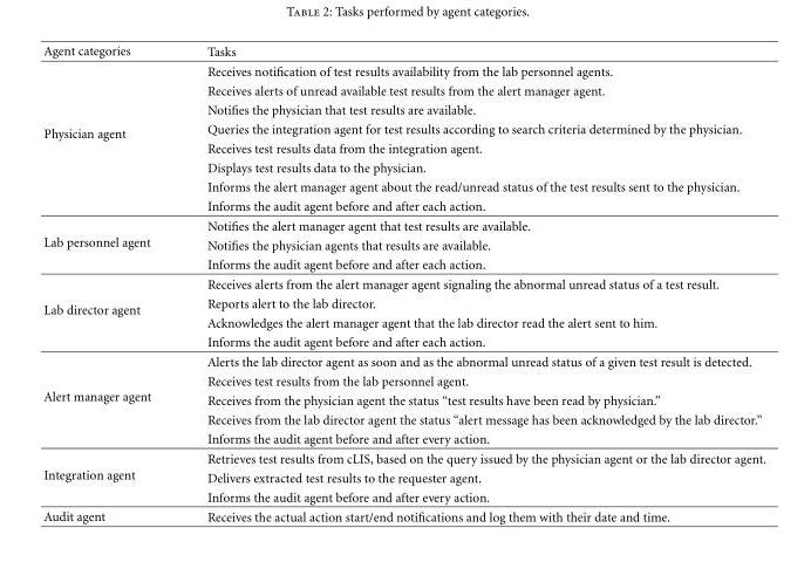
<table><thead><tr><td>Agent categories</td><td>Tasks</td></tr></thead><tbody><tr><td rowspan="8">Physician agent</td><td>Receives notification of test results availability from the lab personnel agents.</td></tr><tr><td>Receives alerts of unread available test results from the alert manager agent.</td></tr><tr><td>Notifies the physician that test results are available.</td></tr><tr><td>Queries the integration agent for test results according to search criteria determined by the physician.</td></tr><tr><td>Receives test results data from the integration agent.</td></tr><tr><td>Displays test results data to the physician.</td></tr><tr><td>Informs the alert manager agent about the read/unread status of the test results sent to the physician.</td></tr><tr><td>Informs the audit agent before and after each action.</td></tr><tr><td rowspan="3">Lab personnel agent</td><td>Notifies the alert manager agent that test results are available.</td></tr><tr><td>Notifies the physician agents that results are available.</td></tr><tr><td>Informs the audit agent before and after each action.</td></tr><tr><td rowspan="4">Lab director agent</td><td>Receives alerts from the alert manager agent signaling the abnormal unread status of a test result.</td></tr><tr><td>Reports alert to the lab director.</td></tr><tr><td>Acknowledges the alert manager agent that the lab director read the alert sent to him.</td></tr><tr><td>Informs the audit agent before and after each action.</td></tr><tr><td rowspan="5">Alert manager agent</td><td>Alerts the lab director agent as soon and as the abnormal unread status of a given test result is detected.</td></tr><tr><td>Receives test results from the lab personnel agent.</td></tr><tr><td>Receives from the physician agent the status “test results have been read by physician.”</td></tr><tr><td>Receives from the lab director agent the status “alert message has been acknowledged by the lab director.”</td></tr><tr><td>Informs the audit agent before and after every action.</td></tr><tr><td rowspan="3">Integration agent</td><td>Retrieves test results from cLIS, based on the query issued by the physician agent or the lab director agent.</td></tr><tr><td>Delivers extracted test results to the requester agent.</td></tr><tr><td>Informs the audit agent before and after every action.</td></tr><tr><td>Audit agent</td><td>Receives the actual action start/end notifications and log them with their date and time.</td></tr></tbody></table>